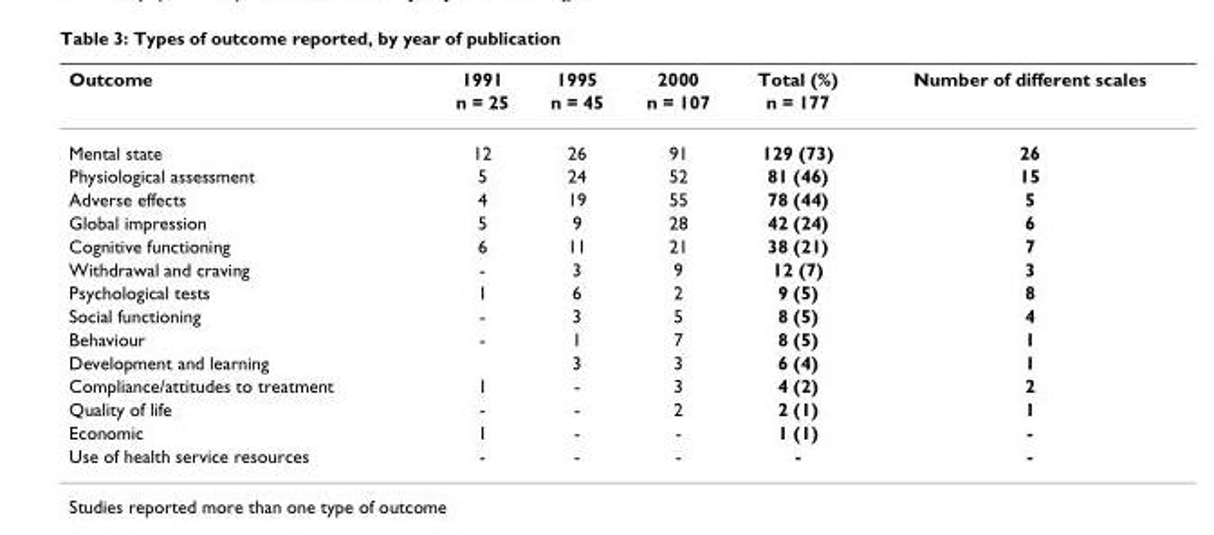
<table><thead><tr><td rowspan="2">Outcome</td><td rowspan="2">1991 n = 25</td><td rowspan="2">1995 n = 45</td><td rowspan="2">2000 n = 107</td><td rowspan="2">Total (%) n = 177</td><td rowspan="2">Number of different scales</td></tr><tr></tr></thead><tbody><tr><td>Mental state</td><td>12</td><td>26</td><td>91</td><td>129 (73)</td><td>26</td></tr><tr><td>Physiological assessment</td><td>5</td><td>24</td><td>52</td><td>81 (46)</td><td>15</td></tr><tr><td>Adverse effects</td><td>4</td><td>19</td><td>55</td><td>78 (44)</td><td>5</td></tr><tr><td>Global impression</td><td>5</td><td>9</td><td>28</td><td>42 (24)</td><td>6</td></tr><tr><td>Cognitive functioning</td><td>6</td><td>11</td><td>21</td><td>38 (21)</td><td>7</td></tr><tr><td>Withdrawal and craving</td><td>-</td><td>3</td><td>9</td><td>12 (7)</td><td>3</td></tr><tr><td>Psychological tests</td><td>1</td><td>6</td><td>2</td><td>9 (5)</td><td>8</td></tr><tr><td>Social functioning</td><td>-</td><td>3</td><td>5</td><td>8 (5)</td><td>4</td></tr><tr><td>Behaviour</td><td>-</td><td>1</td><td>7</td><td>8 (5)</td><td>1</td></tr><tr><td>Development and learning</td><td></td><td>3</td><td>3</td><td>6 (4)</td><td>1</td></tr><tr><td>Compliance/attitudes to treatment</td><td>1</td><td>-</td><td>3</td><td>4 (2)</td><td>2</td></tr><tr><td>Quality of life</td><td>-</td><td>-</td><td>2</td><td>2 (1)</td><td>1</td></tr><tr><td>Economic</td><td>1</td><td>-</td><td>-</td><td>1 (1)</td><td>-</td></tr><tr><td>Use of health service resources</td><td>-</td><td>-</td><td>-</td><td>-</td><td>-</td></tr></tbody></table>